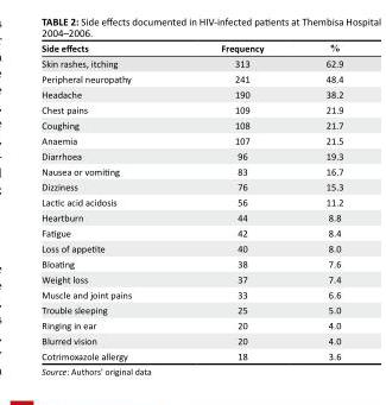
<table><thead><tr><td>Side effects</td><td>Frequency</td><td>%</td></tr></thead><tbody><tr><td>Skin rashes, itching</td><td>313</td><td>62.9</td></tr><tr><td>Peripheral neuropathy</td><td>241</td><td>48.4</td></tr><tr><td>Headache</td><td>190</td><td>38.2</td></tr><tr><td>Chest pains</td><td>109</td><td>21.9</td></tr><tr><td>Coughing</td><td>108</td><td>21.7</td></tr><tr><td>Anaemia</td><td>107</td><td>21.5</td></tr><tr><td>Diarrhoea</td><td>96</td><td>19.3</td></tr><tr><td>Nausea or vomiting</td><td>83</td><td>16.7</td></tr><tr><td>Dizziness</td><td>76</td><td>15.3</td></tr><tr><td>Lactic acid acidosis</td><td>56</td><td>11.2</td></tr><tr><td>Heartburn</td><td>44</td><td>8.8</td></tr><tr><td>Fatigue</td><td>42</td><td>8.4</td></tr><tr><td>Loss of appetite</td><td>40</td><td>8.0</td></tr><tr><td>Bloating</td><td>38</td><td>7.6</td></tr><tr><td>Weight loss</td><td>37</td><td>7.4</td></tr><tr><td>Muscle and joint pains</td><td>33</td><td>6.6</td></tr><tr><td>Trouble sleeping</td><td>25</td><td>5.0</td></tr><tr><td>Ringing in ear</td><td>20</td><td>4.0</td></tr><tr><td>Blurred vision</td><td>20</td><td>4.0</td></tr><tr><td>Cotrimoxazole allergy</td><td>18</td><td>3.6</td></tr></tbody></table>